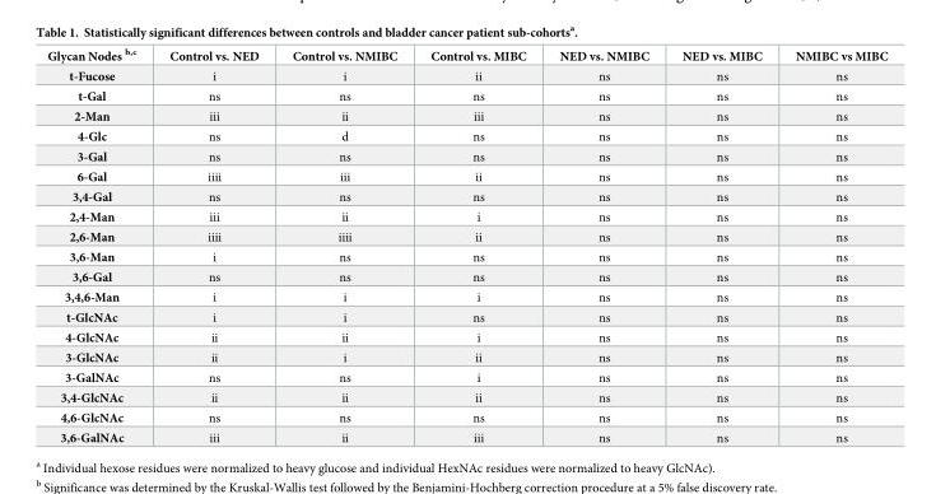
<table><thead><tr><td>Glycan Nodes <sup>b,c</sup></td><td>Control vs. NED</td><td>Control vs. NMIBC</td><td>Control vs. MIBC</td><td>NED vs. NMIBC</td><td>NED vs. MIBC</td><td>NMIBC vs MIBC</td></tr></thead><tbody><tr><td>t-Fucose</td><td>i</td><td>i</td><td>ii</td><td>ns</td><td>ns</td><td>ns</td></tr><tr><td>t-Gal</td><td>ns</td><td>ns</td><td>ns</td><td>ns</td><td>ns</td><td>ns</td></tr><tr><td>2-Man</td><td>iii</td><td>ii</td><td>iii</td><td>ns</td><td>ns</td><td>ns</td></tr><tr><td>4-Glc</td><td>ns</td><td>d</td><td>ns</td><td>ns</td><td>ns</td><td>ns</td></tr><tr><td>3-Gal</td><td>ns</td><td>ns</td><td>ns</td><td>ns</td><td>ns</td><td>ns</td></tr><tr><td>6-Gal</td><td>iiii</td><td>iii</td><td>ii</td><td>ns</td><td>ns</td><td>ns</td></tr><tr><td>3,4-Gal</td><td>ns</td><td>ns</td><td>ns</td><td>ns</td><td>ns</td><td>ns</td></tr><tr><td>2,4-Man</td><td>iii</td><td>ii</td><td>i</td><td>ns</td><td>ns</td><td>ns</td></tr><tr><td>2,6-Man</td><td>iiii</td><td>iiii</td><td>ii</td><td>ns</td><td>ns</td><td>ns</td></tr><tr><td>3,6-Man</td><td>i</td><td>ns</td><td>ns</td><td>ns</td><td>ns</td><td>ns</td></tr><tr><td>3,6-Gal</td><td>ns</td><td>ns</td><td>ns</td><td>ns</td><td>ns</td><td>ns</td></tr><tr><td>3,4,6-Man</td><td>i</td><td>i</td><td>i</td><td>ns</td><td>ns</td><td>ns</td></tr><tr><td>t-GlcNAc</td><td>i</td><td>i</td><td>ns</td><td>ns</td><td>ns</td><td>ns</td></tr><tr><td>4-GlcNAc</td><td>ii</td><td>ii</td><td>i</td><td>ns</td><td>ns</td><td>ns</td></tr><tr><td>3-GlcNAc</td><td>ii</td><td>i</td><td>ii</td><td>ns</td><td>ns</td><td>ns</td></tr><tr><td>3-GalNAc</td><td>ns</td><td>ns</td><td>i</td><td>ns</td><td>ns</td><td>ns</td></tr><tr><td>3,4-GlcNAc</td><td>ii</td><td>ii</td><td>ii</td><td>ns</td><td>ns</td><td>ns</td></tr><tr><td>4,6-GlcNAc</td><td>ns</td><td>ns</td><td>ns</td><td>ns</td><td>ns</td><td>ns</td></tr><tr><td>3,6-GalNAc</td><td>iii</td><td>ii</td><td>iii</td><td>ns</td><td>ns</td><td>ns</td></tr></tbody></table>